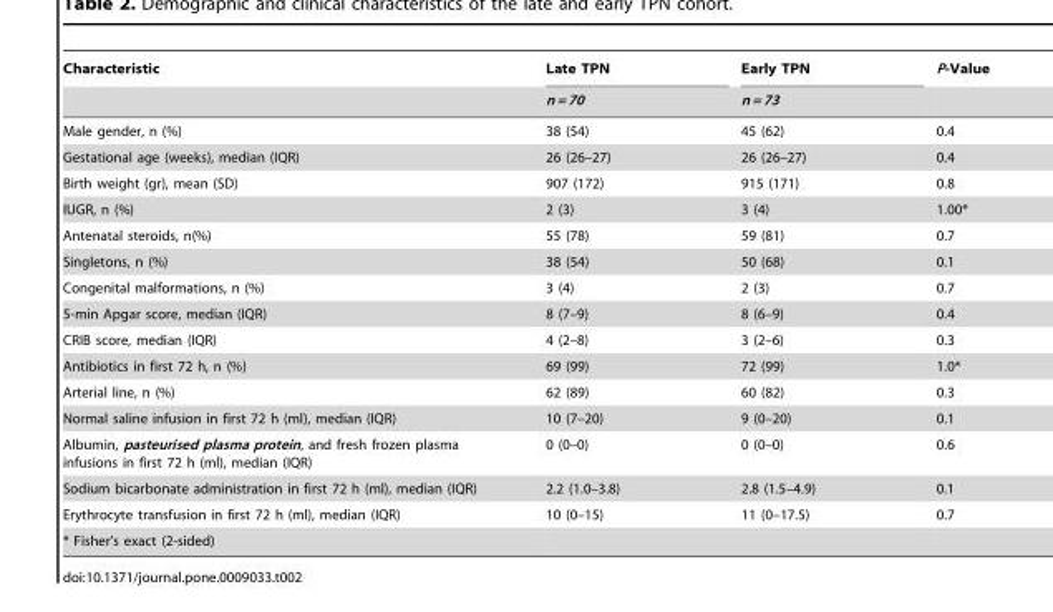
<table><thead><tr><td rowspan="2">Characteristic</td><td rowspan="2">Late TPN n = 70</td><td rowspan="2">Early TPN n = 73</td><td rowspan="2">P-Value</td></tr><tr></tr></thead><tbody><tr><td>Male gender, n (%)</td><td>38 (54)</td><td>45 (62)</td><td>0.4</td></tr><tr><td>Gestational age (weeks), median (IQR)</td><td>26 (26–27)</td><td>26 (26–27)</td><td>0.4</td></tr><tr><td>Birth weight (gr), mean (SD)</td><td>907 (172)</td><td>915 (171)</td><td>0.8</td></tr><tr><td>IUGR, n (%)</td><td>2 (3)</td><td>3 (4)</td><td>1.00*</td></tr><tr><td>Antenatal steroids, n(%)</td><td>55 (78)</td><td>59 (81)</td><td>0.7</td></tr><tr><td>Singletons, n (%)</td><td>38 (54)</td><td>50 (68)</td><td>0.1</td></tr><tr><td>Congenital malformations, n (%)</td><td>3 (4)</td><td>2 (3)</td><td>0.7</td></tr><tr><td>5-min Apgar score, median (IQR)</td><td>8 (7–9)</td><td>8 (6–9)</td><td>0.4</td></tr><tr><td>CRIB score, median (IQR)</td><td>4 (2–8)</td><td>3 (2–6)</td><td>0.3</td></tr><tr><td>Antibiotics in first 72 h, n (%)</td><td>69 (99)</td><td>72 (99)</td><td>1.0*</td></tr><tr><td>Arterial line, n (%)</td><td>62 (89)</td><td>60 (82)</td><td>0.3</td></tr><tr><td>Normal saline infusion in first 72 h (ml), median (IQR)</td><td>10 (7–20)</td><td>9 (0–20)</td><td>0.1</td></tr><tr><td>Albumin, pasteurised plasma protein, and fresh frozen plasma infusions in first 72 h (ml), median (IQR)</td><td>0 (0–0)</td><td>0 (0–0)</td><td>0.6</td></tr><tr><td>Sodium bicarbonate administration in first 72 h (ml), median (IQR)</td><td>2.2 (1.0–3.8)</td><td>2.8 (1.5–4.9)</td><td>0.1</td></tr><tr><td>Erythrocyte transfusion in first 72 h (ml), median (IQR)</td><td>10 (0–15)</td><td>11 (0–17.5)</td><td>0.7</td></tr><tr><td>* Fisher’s exact (2-sided)</td><td></td><td></td><td></td></tr></tbody></table>